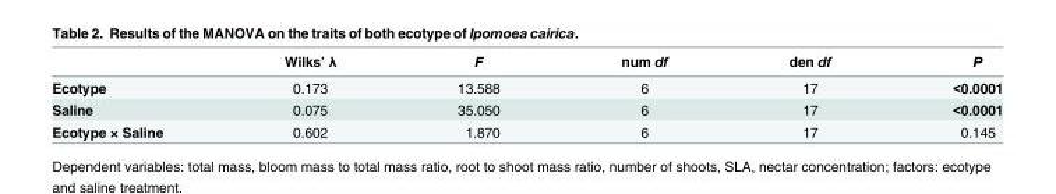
<table><thead><tr><td></td><td>Wilks’ λ</td><td>F</td><td>num df</td><td>den df</td><td>P</td></tr></thead><tbody><tr><td>Ecotype</td><td>0.173</td><td>13.588</td><td>6</td><td>17</td><td>&lt;0.0001</td></tr><tr><td>Saline</td><td>0.075</td><td>35.050</td><td>6</td><td>17</td><td>&lt;0.0001</td></tr><tr><td>Ecotype × Saline</td><td>0.602</td><td>1.870</td><td>6</td><td>17</td><td>0.145</td></tr></tbody></table>